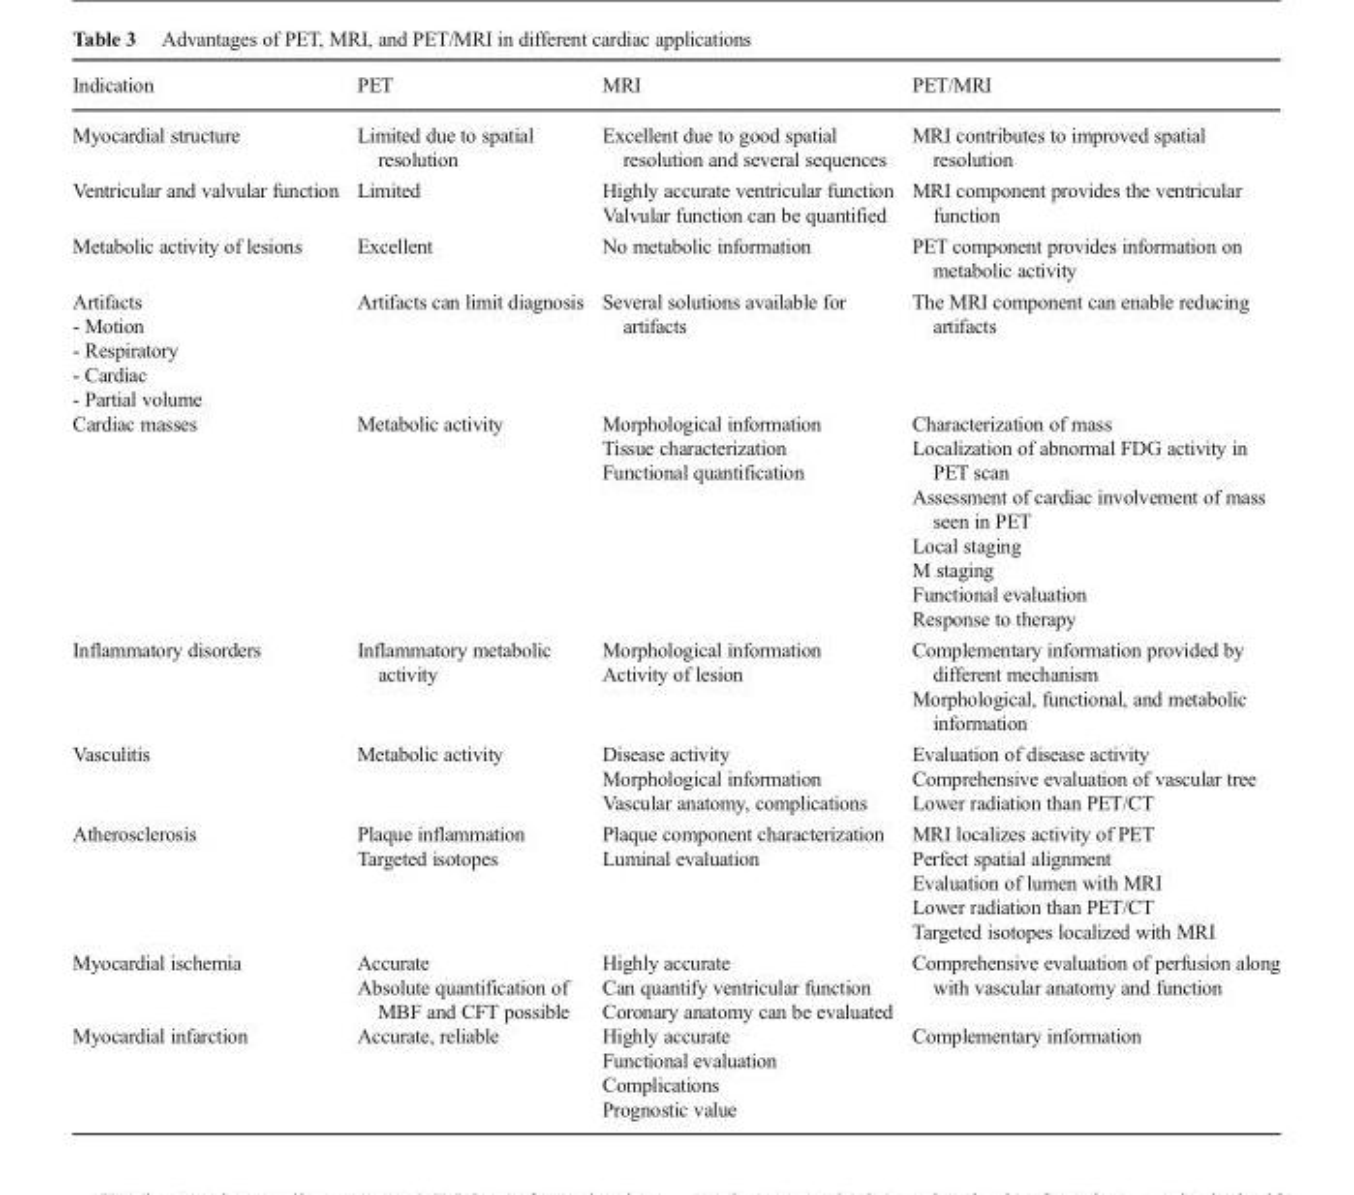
<table><thead><tr><td>Indication</td><td>PET</td><td>MRI</td><td>PET/MRI</td></tr></thead><tbody><tr><td>Myocardial structure</td><td>Limited due to spatial resolution</td><td>Excellent due to good spatial resolution and several sequences</td><td>MRI contributes to improved spatial resolution</td></tr><tr><td>Ventricular and valvular function</td><td>Limited</td><td>Highly accurate ventricular function Valvular function can be quantified</td><td>MRI component provides the ventricular function</td></tr><tr><td>Metabolic activity of lesions</td><td>Excellent</td><td>No metabolic information</td><td>PET component provides information on metabolic activity</td></tr><tr><td>Artifacts - Motion - Respiratory - Cardiac - Partial volume</td><td>Artifacts can limit diagnosis</td><td>Several solutions available for artifacts</td><td>The MRI component can enable reducing artifacts</td></tr><tr><td>Cardiac masses</td><td>Metabolic activity</td><td>Morphological information Tissue characterization Functional quantification</td><td>Characterization of mass Localization of abnormal FDG activity in PET scan Assessment of cardiac involvement of mass seen in PET Local staging M staging Functional evaluation Response to therapy</td></tr><tr><td>Inflammatory disorders</td><td>Inflammatory metabolic activity</td><td>Morphological information Activity of lesion</td><td>Complementary information provided by different mechanism Morphological, functional, and metabolic information</td></tr><tr><td>Vasculitis</td><td>Metabolic activity</td><td>Disease activity Morphological information Vascular anatomy, complications</td><td>Evaluation of disease activity Comprehensive evaluation of vascular tree Lower radiation than PET/CT</td></tr><tr><td>Atherosclerosis</td><td>Plaque inflammation Targeted isotopes</td><td>Plaque component characterization Luminal evaluation</td><td>MRI localizes activity of PET Perfect spatial alignment Evaluation of lumen with MRI Lower radiation than PET/CT Targeted isotopes localized with MRI</td></tr><tr><td>Myocardial ischemia</td><td>Accurate Absolute quantification of MBF and CFT possible</td><td>Highly accurate Can quantify ventricular function Coronary anatomy can be evaluated</td><td>Comprehensive evaluation of perfusion along with vascular anatomy and function</td></tr><tr><td>Myocardial infarction</td><td>Accurate, reliable</td><td>Highly accurate Functional evaluation Complications Prognostic value</td><td>Complementary information</td></tr></tbody></table>